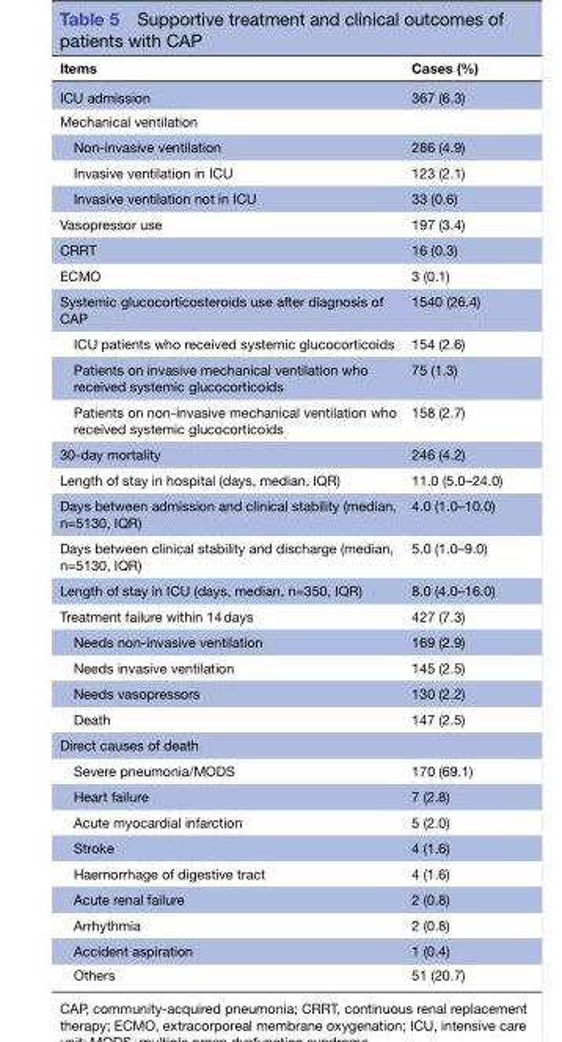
<table><thead><tr><td>Items</td><td>Cases (%)</td></tr></thead><tbody><tr><td>ICU admission</td><td>367 (6.3)</td></tr><tr><td colspan="2">Mechanical ventilation</td></tr><tr><td>Non-invasive ventilation</td><td>286 (4.9)</td></tr><tr><td>Invasive ventilation in ICU</td><td>123 (2.1)</td></tr><tr><td>Invasive ventilation not in ICU</td><td>33 (0.6)</td></tr><tr><td>Vasopressor use</td><td>197 (3.4)</td></tr><tr><td>CRRT</td><td>16 (0.3)</td></tr><tr><td>ECMO</td><td>3 (0.1)</td></tr><tr><td>Systemic glucocorticosteroids use after diagnosis of CAP</td><td>1540 (26.4)</td></tr><tr><td>ICU patients who received systemic glucocorticoids</td><td>154 (2.6)</td></tr><tr><td>Patients on invasive mechanical ventilation who received systemic glucocorticoids</td><td>75 (1.3)</td></tr><tr><td>Patients on non-invasive mechanical ventilation who received systemic glucocorticoids</td><td>158 (2.7)</td></tr><tr><td>30-day mortality</td><td>246 (4.2)</td></tr><tr><td>Length of stay in hospital (days, median, IQR)</td><td>11.0 (5.0–24.0)</td></tr><tr><td>Days between admission and clinical stability (median, n=5130, IQR)</td><td>4.0 (1.0–10.0)</td></tr><tr><td>Days between clinical stability and discharge (median, n=5130, IQR)</td><td>5.0 (1.0–9.0)</td></tr><tr><td>Length of stay in ICU (days, median, n=350, IQR)</td><td>8.0 (4.0–16.0)</td></tr><tr><td>Treatment failure within 14 days</td><td>427 (7.3)</td></tr><tr><td>Needs non-invasive ventilation</td><td>169 (2.9)</td></tr><tr><td>Needs invasive ventilation</td><td>145 (2.5)</td></tr><tr><td>Needs vasopressors</td><td>130 (2.2)</td></tr><tr><td>Death</td><td>147 (2.5)</td></tr><tr><td colspan="2">Direct causes of death</td></tr><tr><td>Severe pneumonia/MODS</td><td>170 (69.1)</td></tr><tr><td>Heart failure</td><td>7 (2.8)</td></tr><tr><td>Acute myocardial infarction</td><td>5 (2.0)</td></tr><tr><td>Stroke</td><td>4 (1.6)</td></tr><tr><td>Haemorrhage of digestive tract</td><td>4 (1.6)</td></tr><tr><td>Acute renal failure</td><td>2 (0.8)</td></tr><tr><td>Arrhythmia</td><td>2 (0.8)</td></tr><tr><td>Accident aspiration</td><td>1 (0.4)</td></tr><tr><td>Others</td><td>51 (20.7)</td></tr></tbody></table>